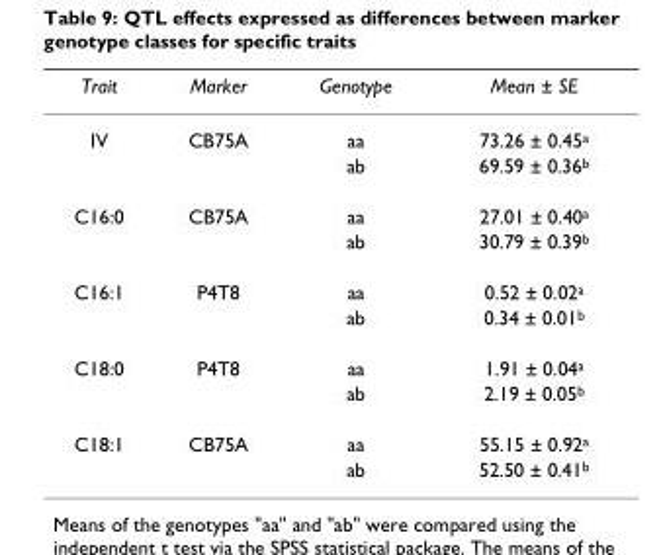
<table><thead><tr><td>Trait</td><td>Marker</td><td>Genotype</td><td>Mean ± SE</td></tr></thead><tbody><tr><td rowspan="2">IV</td><td>CB75A</td><td>aa</td><td>73.26 ± 0.45<sup>a</sup></td></tr><tr><td></td><td>ab</td><td>69.59 ± 0.36<sup>b</sup></td></tr><tr><td rowspan="2">C16:0</td><td>CB75A</td><td>aa</td><td>27.01 ± 0.40<sup>a</sup></td></tr><tr><td></td><td>ab</td><td>30.79 ± 0.39<sup>b</sup></td></tr><tr><td rowspan="2">C16:1</td><td>P4T8</td><td>aa</td><td>0.52 ± 0.02<sup>a</sup></td></tr><tr><td></td><td>ab</td><td>0.34 ± 0.01<sup>b</sup></td></tr><tr><td rowspan="2">C18:0</td><td>P4T8</td><td>aa</td><td>1.91 ± 0.04<sup>a</sup></td></tr><tr><td></td><td>ab</td><td>2.19 ± 0.05<sup>b</sup></td></tr><tr><td rowspan="2">C18:1</td><td>CB75A</td><td>aa</td><td>55.15 ± 0.92<sup>a</sup></td></tr><tr><td></td><td>ab</td><td>52.50 ± 0.41<sup>b</sup></td></tr></tbody></table>